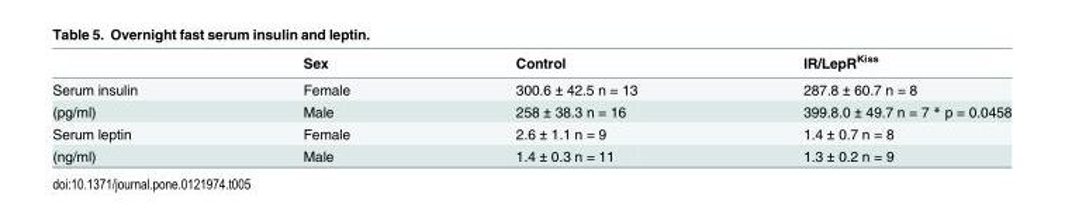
<table><thead><tr><td></td><td>Sex</td><td>Control</td><td>IR/LepR<sup>Kiss</sup></td></tr></thead><tbody><tr><td>Serum insulin</td><td>Female</td><td>300.6 ± 42.5 n = 13</td><td>287.8 ± 60.7 n = 8</td></tr><tr><td>(pg/ml)</td><td>Male</td><td>258 ± 38.3 n = 16</td><td>399.8.0 ± 49.7 n = 7 * p = 0.0458</td></tr><tr><td>Serum leptin</td><td>Female</td><td>2.6 ± 1.1 n = 9</td><td>1.4 ± 0.7 n = 8</td></tr><tr><td>(ng/ml)</td><td>Male</td><td>1.4 ± 0.3 n = 11</td><td>1.3 ± 0.2 n = 9</td></tr></tbody></table>